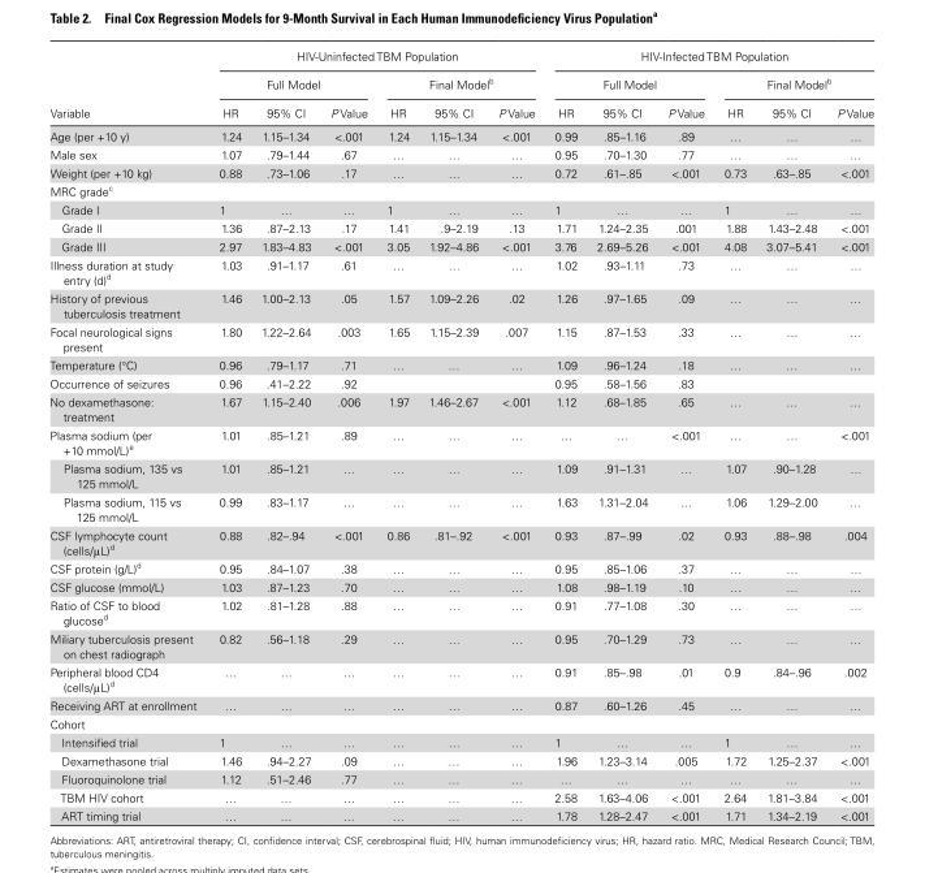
<table><thead><tr><td rowspan="3">Variable</td><td colspan="6">HIV-Uninfected TBM Population</td><td colspan="6">HIV-Infected TBM Population</td></tr><tr><td colspan="3">Full Model</td><td colspan="3">Final Model<sup>b</sup></td><td colspan="3">Full Model</td><td colspan="3">Final Model<sup>b</sup></td></tr><tr><td>HR</td><td>95% CI</td><td>P Value</td><td>HR</td><td>95% CI</td><td>P Value</td><td>HR</td><td>95% CI</td><td>P Value</td><td>HR</td><td>95% CI</td><td>P Value</td></tr></thead><tbody><tr><td>Age (per +10 y)</td><td>1.24</td><td>1.15–1.34</td><td>&lt;.001</td><td>1.24</td><td>1.15–1.34</td><td>&lt;.001</td><td>0.99</td><td>.85–1.16</td><td>.89</td><td>…</td><td>…</td><td>…</td></tr><tr><td>Male sex</td><td>1.07</td><td>.79–1.44</td><td>.67</td><td>…</td><td>…</td><td>…</td><td>0.95</td><td>.70–1.30</td><td>.77</td><td>…</td><td>…</td><td>…</td></tr><tr><td>Weight (per +10 kg)</td><td>0.88</td><td>.73–1.06</td><td>.17</td><td>…</td><td>…</td><td>…</td><td>0.72</td><td>.61–.85</td><td>&lt;.001</td><td>0.73</td><td>.63–.85</td><td>&lt;.001</td></tr><tr><td colspan="13">MRC grade<sup>c</sup></td></tr><tr><td>Grade I</td><td>1</td><td>…</td><td>…</td><td>1</td><td>…</td><td>…</td><td>1</td><td>…</td><td>…</td><td>1</td><td>…</td><td>…</td></tr><tr><td>Grade II</td><td>1.36</td><td>.87–2.13</td><td>.17</td><td>1.41</td><td>.9–2.19</td><td>.13</td><td>1.71</td><td>1.24–2.35</td><td>.001</td><td>1.88</td><td>1.43–2.48</td><td>&lt;.001</td></tr><tr><td>Grade III</td><td>2.97</td><td>1.83–4.83</td><td>&lt;.001</td><td>3.05</td><td>1.92–4.86</td><td>&lt;.001</td><td>3.76</td><td>2.69–5.26</td><td>&lt;.001</td><td>4.08</td><td>3.07–5.41</td><td>&lt;.001</td></tr><tr><td>Illness duration at study entry (d)<sup>d</sup></td><td>1.03</td><td>.91–1.17</td><td>.61</td><td>…</td><td>…</td><td>…</td><td>1.02</td><td>.93–1.11</td><td>.73</td><td>…</td><td>…</td><td>…</td></tr><tr><td>History of previous tuberculosis treatment</td><td>1.46</td><td>1.00–2.13</td><td>.05</td><td>1.57</td><td>1.09–2.26</td><td>.02</td><td>1.26</td><td>.97–1.65</td><td>.09</td><td>…</td><td>…</td><td>…</td></tr><tr><td>Focal neurological signs present</td><td>1.80</td><td>1.22–2.64</td><td>.003</td><td>1.65</td><td>1.15–2.39</td><td>.007</td><td>1.15</td><td>.87–1.53</td><td>.33</td><td>…</td><td>…</td><td>…</td></tr><tr><td>Temperature (°C)</td><td>0.96</td><td>.79–1.17</td><td>.71</td><td>…</td><td>…</td><td>…</td><td>1.09</td><td>.96–1.24</td><td>.18</td><td>…</td><td>…</td><td>…</td></tr><tr><td>Occurrence of seizures</td><td>0.96</td><td>.41–2.22</td><td>.92</td><td></td><td></td><td></td><td>0.95</td><td>.58–1.56</td><td>.83</td><td></td><td></td><td></td></tr><tr><td>No dexamethasone: treatment</td><td>1.67</td><td>1.15–2.40</td><td>.006</td><td>1.97</td><td>1.46–2.67</td><td>&lt;.001</td><td>1.12</td><td>.68–1.85</td><td>.65</td><td>…</td><td>…</td><td>…</td></tr><tr><td>Plasma sodium (per +10 mmol/L)<sup>e</sup></td><td>1.01</td><td>.85–1.21</td><td>.89</td><td>…</td><td>…</td><td>…</td><td>…</td><td>…</td><td>&lt;.001</td><td>…</td><td>…</td><td>&lt;.001</td></tr><tr><td>Plasma sodium, 135 vs 125 mmol/L</td><td>1.01</td><td>.85–1.21</td><td>…</td><td>…</td><td>…</td><td>…</td><td>1.09</td><td>.91–1.31</td><td>…</td><td>1.07</td><td>.90–1.28</td><td>…</td></tr><tr><td>Plasma sodium, 115 vs 125 mmol/L</td><td>0.99</td><td>.83–1.17</td><td>…</td><td>…</td><td>…</td><td>…</td><td>1.63</td><td>1.31–2.04</td><td>…</td><td>1.06</td><td>1.29–2.00</td><td>…</td></tr><tr><td>CSF lymphocyte count (cells/μL)<sup>d</sup></td><td>0.88</td><td>.82–.94</td><td>&lt;.001</td><td>0.86</td><td>.81–.92</td><td>&lt;.001</td><td>0.93</td><td>.87–.99</td><td>.02</td><td>0.93</td><td>.88–.98</td><td>.004</td></tr><tr><td>CSF protein (g/L)<sup>d</sup></td><td>0.95</td><td>.84–1.07</td><td>.38</td><td>…</td><td>…</td><td>…</td><td>0.95</td><td>.85–1.06</td><td>.37</td><td>…</td><td>…</td><td>…</td></tr><tr><td>CSF glucose (mmol/L)</td><td>1.03</td><td>.87–1.23</td><td>.70</td><td>…</td><td>…</td><td>…</td><td>1.08</td><td>.98–1.19</td><td>.10</td><td>…</td><td>…</td><td>…</td></tr><tr><td>Ratio of CSF to blood glucose<sup>d</sup></td><td>1.02</td><td>.81–1.28</td><td>.88</td><td>…</td><td>…</td><td>…</td><td>0.91</td><td>.77–1.08</td><td>.30</td><td>…</td><td>…</td><td>…</td></tr><tr><td>Miliary tuberculosis present on chest radiograph</td><td>0.82</td><td>.56–1.18</td><td>.29</td><td>…</td><td>…</td><td>…</td><td>0.95</td><td>.70–1.29</td><td>.73</td><td>…</td><td>…</td><td>…</td></tr><tr><td>Peripheral blood CD4 (cells/μL)<sup>d</sup></td><td>…</td><td>…</td><td>…</td><td>…</td><td>…</td><td>…</td><td>0.91</td><td>.85–.98</td><td>.01</td><td>0.9</td><td>.84–.96</td><td>.002</td></tr><tr><td>Receiving ART at enrollment</td><td>…</td><td>…</td><td>…</td><td>…</td><td>…</td><td>…</td><td>0.87</td><td>.60–1.26</td><td>.45</td><td>…</td><td>…</td><td>…</td></tr><tr><td colspan="13">Cohort</td></tr><tr><td>Intensified trial</td><td>1</td><td>…</td><td>…</td><td>…</td><td>…</td><td>…</td><td>1</td><td>…</td><td>…</td><td>1</td><td>…</td><td>…</td></tr><tr><td>Dexamethasone trial</td><td>1.46</td><td>.94–2.27</td><td>.09</td><td>…</td><td>…</td><td>…</td><td>1.96</td><td>1.23–3.14</td><td>.005</td><td>1.72</td><td>1.25–2.37</td><td>&lt;.001</td></tr><tr><td>Fluoroquinolone trial</td><td>1.12</td><td>.51–2.46</td><td>.77</td><td>…</td><td>…</td><td>…</td><td>…</td><td>…</td><td>…</td><td>…</td><td>…</td><td>…</td></tr><tr><td>TBM HIV cohort</td><td>…</td><td>…</td><td>…</td><td>…</td><td>…</td><td>…</td><td>2.58</td><td>1.63–4.06</td><td>&lt;.001</td><td>2.64</td><td>1.81–3.84</td><td>&lt;.001</td></tr><tr><td>ART timing trial</td><td>…</td><td>…</td><td>…</td><td>…</td><td>…</td><td>…</td><td>1.78</td><td>1.28–2.47</td><td>&lt;.001</td><td>1.71</td><td>1.34–2.19</td><td>&lt;.001</td></tr></tbody></table>